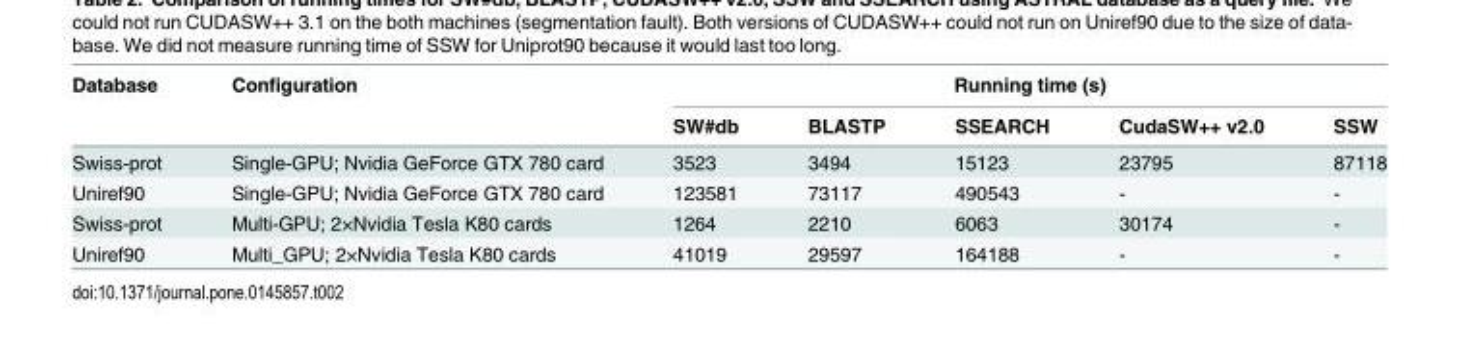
<table><thead><tr><td rowspan="2">Database</td><td rowspan="2">Configuration</td><td colspan="5">Running time (s)</td></tr><tr><td>SW#db</td><td>BLASTP</td><td>SSEARCH</td><td>CudaSW++ v2.0</td><td>SSW</td></tr></thead><tbody><tr><td>Swiss-prot</td><td>Single-GPU; Nvidia GeForce GTX 780 card</td><td>3523</td><td>3494</td><td>15123</td><td>23795</td><td>87118</td></tr><tr><td>Uniref90</td><td>Single-GPU; Nvidia GeForce GTX 780 card</td><td>123581</td><td>73117</td><td>490543</td><td>-</td><td>-</td></tr><tr><td>Swiss-prot</td><td>Multi-GPU; 2×Nvidia Tesla K80 cards</td><td>1264</td><td>2210</td><td>6063</td><td>30174</td><td>-</td></tr><tr><td>Uniref90</td><td>Multi_GPU; 2×Nvidia Tesla K80 cards</td><td>41019</td><td>29597</td><td>164188</td><td>-</td><td>-</td></tr></tbody></table>